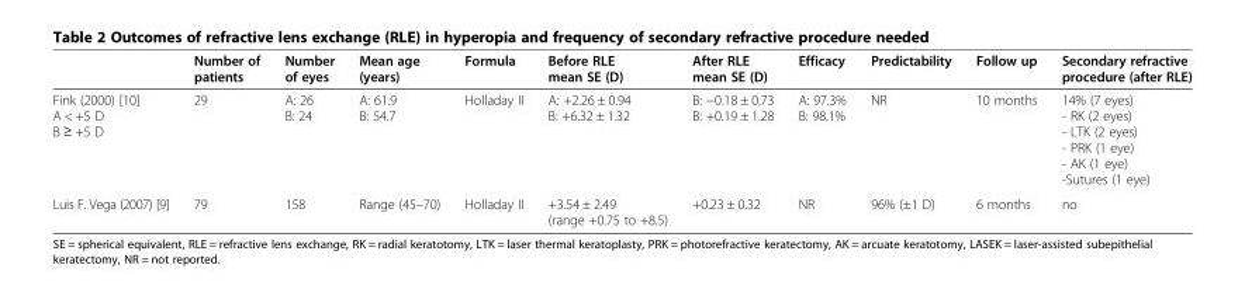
<table><thead><tr><td></td><td>Number of patients</td><td>Number of eyes</td><td>Mean age (years)</td><td>Formula</td><td>Before RLE mean SE (D)</td><td>After RLE mean SE (D)</td><td>Efficacy</td><td>Predictability</td><td>Follow up</td><td>Secondary refractive procedure (after RLE)</td></tr></thead><tbody><tr><td>Fink (2000) [10] A &lt; +5 D B ≥ +5 D</td><td>29</td><td>A: 26 B: 24</td><td>A: 61.9 B: 54.7</td><td>Holladay II</td><td>A: +2.26 ± 0.94 B: +6.32 ± 1.32</td><td>B: −0.18 ± 0.73 B: +0.19 ± 1.28</td><td>A: 97.3% B: 98.1%</td><td>NR</td><td>10 months</td><td>14% (7 eyes) - RK (2 eyes) - LTK (2 eyes) - PRK (1 eye) - AK (1 eye) -Sutures (1 eye)</td></tr><tr><td>Luis F. Vega (2007) [9]</td><td>79</td><td>158</td><td>Range (45–70)</td><td>Holladay II</td><td>+3.54 ± 2.49 (range +0.75 to +8.5)</td><td>+0.23 ± 0.32</td><td>NR</td><td>96% (±1 D)</td><td>6 months</td><td>no</td></tr></tbody></table>